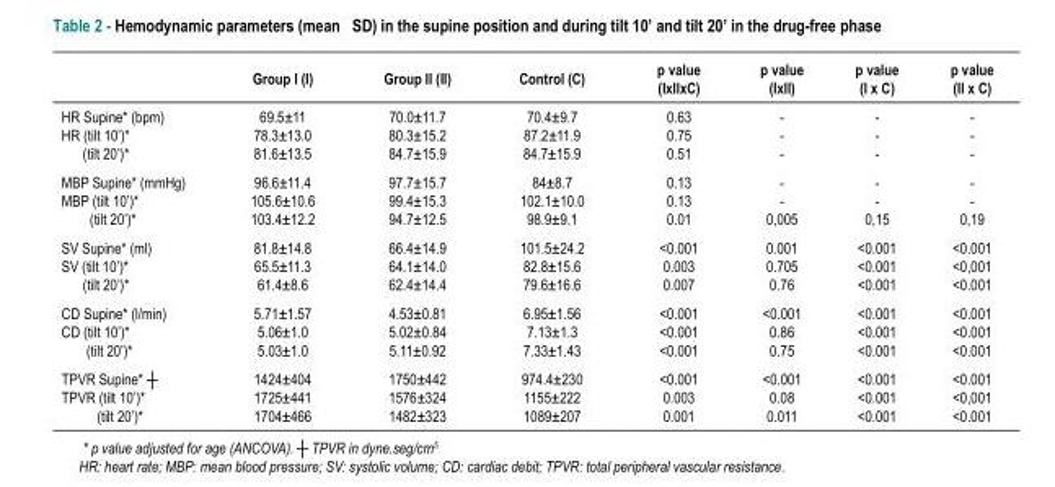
<table><thead><tr><td></td><td>Group I (I)</td><td>Group II (II)</td><td>Control (C)</td><td>p value (IxIIxC)</td><td>p value (IxII)</td><td>p value (I x C)</td><td>p value (II x C)</td></tr></thead><tbody><tr><td>HR Supine* (bpm) HR (tilt 10’)* (tilt 20’)*</td><td>69.5±11 78.3±13.0 81.6±13.5</td><td>70.0±11.7 80.3±15.2 84.7±15.9</td><td>70.4±9.7 87.2±11.9 84.7±15.9</td><td>0.63 0.75 0.51</td><td>- - -</td><td>- - -</td><td>- - -</td></tr><tr><td>MBP Supine* (mmHg) MBP (tilt 10’)* (tilt 20’)*</td><td>96.6±11.4 105.6±10.6 103.4±12.2</td><td>97.7±15.7 99.4±15.3 94.7±12.5</td><td>84±8.7 102.1±10.0 98.9±9.1</td><td>0.13 0.13 0.01</td><td>- - 0,005</td><td>- - 0,15</td><td>- - 0,19</td></tr><tr><td>SV Supine* (ml) SV (tilt 10’)* (tilt 20’)*</td><td>81.8±14.8 65.5±11.3 61.4±8.6</td><td>66.4±14.9 64.1±14.0 62.4±14.4</td><td>101.5±24.2 82.8±15.6 79.6±16.6</td><td>&lt;0.001 0.003 0.007</td><td>0.001 0.705 0.76</td><td>&lt;0.001 &lt;0.001 &lt;0.001</td><td>&lt;0.001 &lt;0,001 &lt;0.001</td></tr><tr><td>CD Supine* (l/min) CD (tilt 10’)* (tilt 20’)*</td><td>5.71±1.57 5.06±1.0 5.03±1.0</td><td>4.53±0.81 5.02±0.84 5.11±0.92</td><td>6.95±1.56 7.13±1.3 7.33±1.43</td><td>&lt;0.001 &lt;0.001 &lt;0.001</td><td>&lt;0.001 0.86 0.75</td><td>&lt;0.001 &lt;0.001 &lt;0.001</td><td>&lt;0.001 &lt;0.001 &lt;0.001</td></tr><tr><td>TPVR Supine* ┼ TPVR (tilt 10’)* (tilt 20’)*</td><td>1424±404 1725±441 1704±466</td><td>1750±442 1576±324 1482±323</td><td>974.4±230 1155±222 1089±207</td><td>&lt;0.001 0.003 0.001</td><td>&lt;0.001 0.08 0.011</td><td>&lt;0.001 &lt;0.001 &lt;0.001</td><td>&lt;0.001 &lt;0,001 &lt;0.001</td></tr></tbody></table>